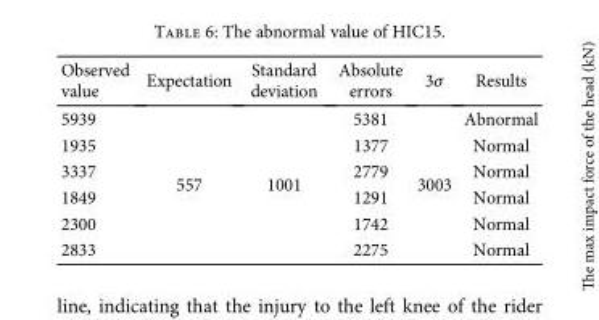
<table><thead><tr><td>Observed value</td><td>Expectation</td><td>Standard deviation</td><td>Absolute errors</td><td>3σ</td><td>Results</td></tr></thead><tbody><tr><td>5939</td><td rowspan="6">557</td><td rowspan="6">1001</td><td>5381</td><td rowspan="6">3003</td><td>Abnormal</td></tr><tr><td>1935</td><td>1377</td><td>Normal</td></tr><tr><td>3337</td><td>2779</td><td>Normal</td></tr><tr><td>1849</td><td>1291</td><td>Normal</td></tr><tr><td>2300</td><td>1742</td><td>Normal</td></tr><tr><td>2833</td><td>2275</td><td>Normal</td></tr></tbody></table>